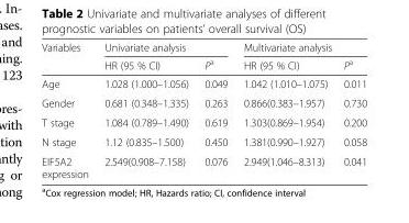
<table><thead><tr><td rowspan="2">Variables</td><td colspan="2">Univariate analysis</td><td colspan="2">Multivariate analysis</td></tr><tr><td>HR (95 % CI)</td><td>P<sup>a</sup></td><td>HR (95 % CI)</td><td>P<sup>a</sup></td></tr></thead><tbody><tr><td>Age</td><td>1.028 (1.000–1.056)</td><td>0.049</td><td>1.042 (1.010–1.075)</td><td>0.011</td></tr><tr><td>Gender</td><td>0.681 (0.348–1.335)</td><td>0.263</td><td>0.866(0.383–1.957)</td><td>0.730</td></tr><tr><td>T stage</td><td>1.084 (0.789–1.490)</td><td>0.619</td><td>1.303(0.869–1.954)</td><td>0.200</td></tr><tr><td>N stage</td><td>1.12 (0.835–1.500)</td><td>0.450</td><td>1.381(0.990–1.927)</td><td>0.058</td></tr><tr><td>EIF5A2 expression</td><td>2.549(0.908–7.158)</td><td>0.076</td><td>2.949(1.046–8.313)</td><td>0.041</td></tr></tbody></table>